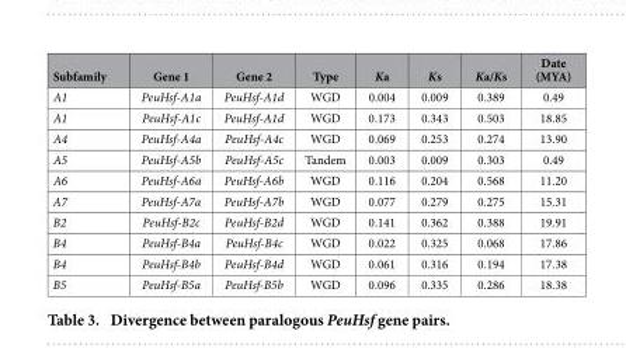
<table><thead><tr><td>Subfamily</td><td>Gene 1</td><td>Gene 2</td><td>Type</td><td>Ka</td><td>Ks</td><td>Ka/Ks</td><td>Date (MYA)</td></tr></thead><tbody><tr><td>A1</td><td>PeuHsf-A1a</td><td>PeuHsf-A1d</td><td>WGD</td><td>0.004</td><td>0.009</td><td>0.389</td><td>0.49</td></tr><tr><td>A1</td><td>PeuHsf-A1c</td><td>PeuHsf-A1d</td><td>WGD</td><td>0.173</td><td>0.343</td><td>0.503</td><td>18.85</td></tr><tr><td>A4</td><td>PeuHsf-A4a</td><td>PeuHsf-A4c</td><td>WGD</td><td>0.069</td><td>0.253</td><td>0.274</td><td>13.90</td></tr><tr><td>A5</td><td>PeuHsf-A5b</td><td>PeuHsf-A5c</td><td>Tandem</td><td>0.003</td><td>0.009</td><td>0.303</td><td>0.49</td></tr><tr><td>A6</td><td>PeuHsf-A6a</td><td>PeuHsf-A6b</td><td>WGD</td><td>0.116</td><td>0.204</td><td>0.568</td><td>11.20</td></tr><tr><td>A7</td><td>PeuHsf-A7a</td><td>PeuHsf-A7b</td><td>WGD</td><td>0.077</td><td>0.279</td><td>0.275</td><td>15.31</td></tr><tr><td>B2</td><td>PeuHsf-B2c</td><td>PeuHsf-B2d</td><td>WGD</td><td>0.141</td><td>0.362</td><td>0.388</td><td>19.91</td></tr><tr><td>B4</td><td>PeuHsf-B4a</td><td>PeuHsf-B4c</td><td>WGD</td><td>0.022</td><td>0.325</td><td>0.068</td><td>17.86</td></tr><tr><td>B4</td><td>PeuHsf-B4b</td><td>PeuHsf-B4d</td><td>WGD</td><td>0.061</td><td>0.316</td><td>0.194</td><td>17.38</td></tr><tr><td>B5</td><td>PeuHsf-B5a</td><td>PeuHsf-B5b</td><td>WGD</td><td>0.096</td><td>0.335</td><td>0.286</td><td>18.38</td></tr></tbody></table>